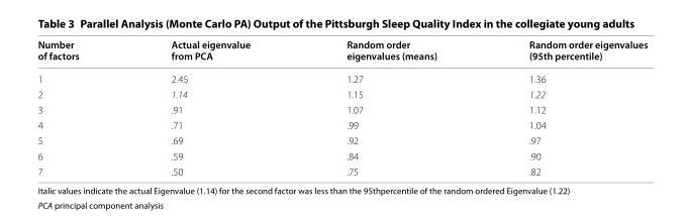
<table><thead><tr><td>Number of factors</td><td>Actual eigenvalue from PCA</td><td>Random order eigenvalues (means)</td><td>Random order eigenvalues (95th percentile)</td></tr></thead><tbody><tr><td>1</td><td>2.45</td><td>1.27</td><td>1.36</td></tr><tr><td>2</td><td>1.14</td><td>1.15</td><td>1.22</td></tr><tr><td>3</td><td>.91</td><td>1.07</td><td>1.12</td></tr><tr><td>4</td><td>.71</td><td>.99</td><td>1.04</td></tr><tr><td>5</td><td>.69</td><td>.92</td><td>.97</td></tr><tr><td>6</td><td>.59</td><td>.84</td><td>.90</td></tr><tr><td>7</td><td>.50</td><td>.75</td><td>.82</td></tr></tbody></table>